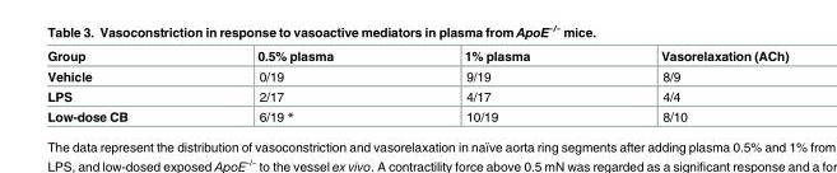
<table><thead><tr><td>Group</td><td>0.5% plasma</td><td>1% plasma</td><td>Vasorelaxation (ACh)</td></tr></thead><tbody><tr><td>Vehicle</td><td>0/19</td><td>9/19</td><td>8/9</td></tr><tr><td>LPS</td><td>2/17</td><td>4/17</td><td>4/4</td></tr><tr><td>Low-dose CB</td><td>6/19 *</td><td>10/19</td><td>8/10</td></tr></tbody></table>